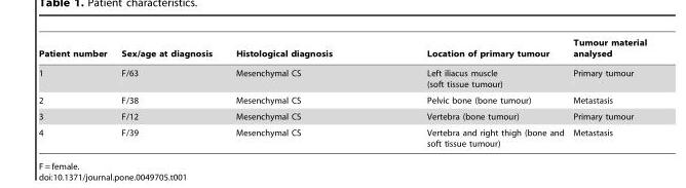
<table><thead><tr><td>Patient number</td><td>Sex/age at diagnosis</td><td>Histological diagnosis</td><td>Location of primary tumour</td><td>Tumour material analysed</td></tr></thead><tbody><tr><td>1</td><td>F/63</td><td>Mesenchymal CS</td><td>Left iliacus muscle (soft tissue tumour)</td><td>Primary tumour</td></tr><tr><td>2</td><td>F/38</td><td>Mesenchymal CS</td><td>Pelvic bone (bone tumour)</td><td>Metastasis</td></tr><tr><td>3</td><td>F/12</td><td>Mesenchymal CS</td><td>Vertebra (bone tumour)</td><td>Primary tumour</td></tr><tr><td>4</td><td>F/39</td><td>Mesenchymal CS</td><td>Vertebra and right thigh (bone and soft tissue tumour)</td><td>Metastasis</td></tr></tbody></table>